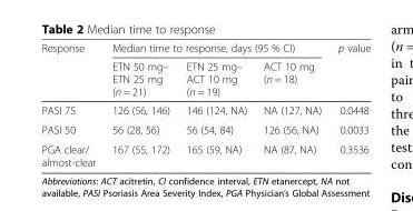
<table><thead><tr><td rowspan="2">Response</td><td colspan="3">Median time to response, days (95 % CI)</td><td rowspan="2">p value</td></tr><tr><td>ETN 50 mg– ETN 25 mg (n = 21)</td><td>ETN 25 mg– ACT 10 mg (n = 19)</td><td>ACT 10 mg (n = 18)</td></tr></thead><tbody><tr><td>PASI 75</td><td>126 (56, 146)</td><td>146 (124, NA)</td><td>NA (127, NA)</td><td>0.0448</td></tr><tr><td>PASI 50</td><td>56 (28, 56)</td><td>56 (54, 84)</td><td>126 (56, NA)</td><td>0.0033</td></tr><tr><td>PGA clear/ almost-clear</td><td>167 (55, 172)</td><td>165 (59, NA)</td><td>NA (87, NA)</td><td>0.3536</td></tr></tbody></table>